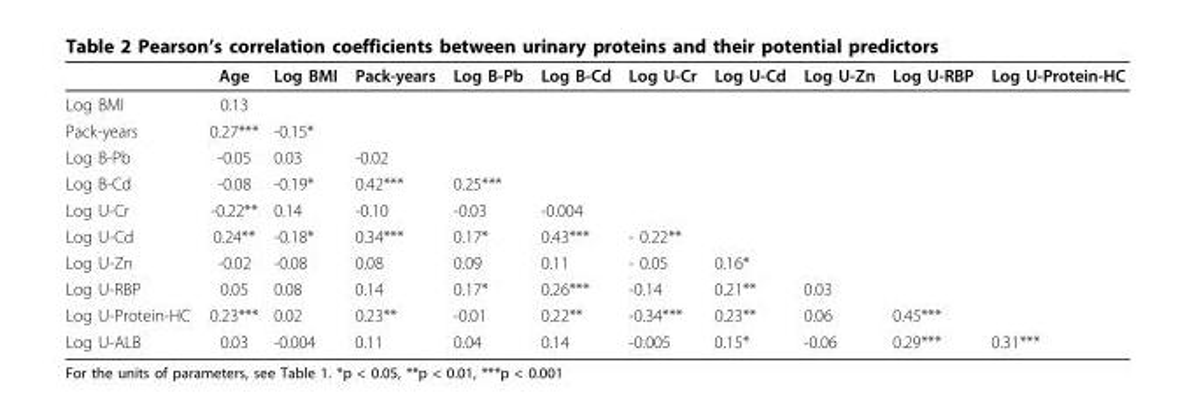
<table><thead><tr><td></td><td>Age</td><td>Log BMI</td><td>Pack-years</td><td>Log B-Pb</td><td>Log B-Cd</td><td>Log U-Cr</td><td>Log U-Cd</td><td>Log U-Zn</td><td>Log U-RBP</td><td>Log U-Protein-HC</td></tr></thead><tbody><tr><td>Log BMI</td><td>0.13</td><td></td><td></td><td></td><td></td><td></td><td></td><td></td><td></td><td></td></tr><tr><td>Pack-years</td><td>0.27***</td><td>-0.15*</td><td></td><td></td><td></td><td></td><td></td><td></td><td></td><td></td></tr><tr><td>Log B-Pb</td><td>-0.05</td><td>0.03</td><td>-0.02</td><td></td><td></td><td></td><td></td><td></td><td></td><td></td></tr><tr><td>Log B-Cd</td><td>-0.08</td><td>-0.19*</td><td>0.42***</td><td>0.25***</td><td></td><td></td><td></td><td></td><td></td><td></td></tr><tr><td>Log U-Cr</td><td>-0.22**</td><td>0.14</td><td>-0.10</td><td>-0.03</td><td>-0.004</td><td></td><td></td><td></td><td></td><td></td></tr><tr><td>Log U-Cd</td><td>0.24**</td><td>-0.18*</td><td>0.34***</td><td>0.17*</td><td>0.43***</td><td>- 0.22**</td><td></td><td></td><td></td><td></td></tr><tr><td>Log U-Zn</td><td>-0.02</td><td>-0.08</td><td>0.08</td><td>0.09</td><td>0.11</td><td>- 0.05</td><td>0.16*</td><td></td><td></td><td></td></tr><tr><td>Log U-RBP</td><td>0.05</td><td>0.08</td><td>0.14</td><td>0.17*</td><td>0.26***</td><td>-0.14</td><td>0.21**</td><td>0.03</td><td></td><td></td></tr><tr><td>Log U-Protein-HC</td><td>0.23***</td><td>0.02</td><td>0.23**</td><td>-0.01</td><td>0.22**</td><td>-0.34***</td><td>0.23**</td><td>0.06</td><td>0.45***</td><td></td></tr><tr><td>Log U-ALB</td><td>0.03</td><td>-0.004</td><td>0.11</td><td>0.04</td><td>0.14</td><td>-0.005</td><td>0.15*</td><td>-0.06</td><td>0.29***</td><td>0.31***</td></tr></tbody></table>